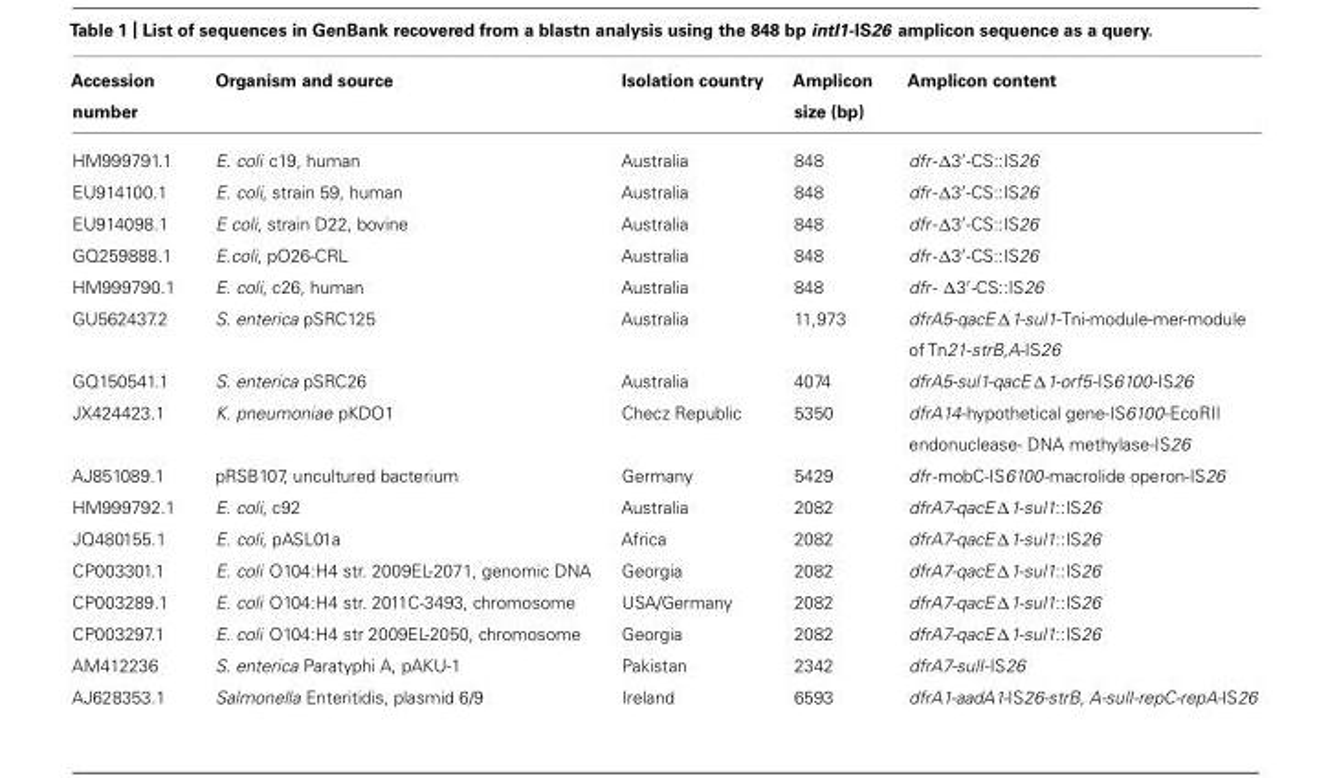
<table><thead><tr><td>Accession number</td><td>Organism and source</td><td>Isolation country</td><td>Amplicon size (bp)</td><td>Amplicon content</td></tr></thead><tbody><tr><td>HM999791.1</td><td>E. coli c19, human</td><td>Australia</td><td>848</td><td>dfr-Δ3′-CS::IS26</td></tr><tr><td>EU914100.1</td><td>E. coli, strain 59, human</td><td>Australia</td><td>848</td><td>dfr-Δ3′-CS::IS26</td></tr><tr><td>EU914098.1</td><td>E coli, strain D22, bovine</td><td>Australia</td><td>848</td><td>dfr-Δ3′-CS::IS26</td></tr><tr><td>GQ259888.1</td><td>E.coli, pO26-CRL</td><td>Australia</td><td>848</td><td>dfr-Δ3′-CS::IS26</td></tr><tr><td>HM999790.1</td><td>E. coli, c26, human</td><td>Australia</td><td>848</td><td>dfr- Δ3′-CS::IS26</td></tr><tr><td>GU562437.2</td><td>S. enterica pSRC125</td><td>Australia</td><td>11,973</td><td>dfrA5-qacEΔ1-sul1-Tni-module-mer-module of Tn21-strB,A-IS26</td></tr><tr><td>GQ150541.1</td><td>S. enterica pSRC26</td><td>Australia</td><td>4074</td><td>dfrA5-sul1-qacEΔ1-orf5-IS6100-IS26</td></tr><tr><td>JX424423.1</td><td>K. pneumoniae pKDO1</td><td>Checz Republic</td><td>5350</td><td>dfrA14-hypothetical gene-IS6100-EcoRII endonuclease- DNA methylase-IS26</td></tr><tr><td>AJ851089.1</td><td>pRSB107, uncultured bacterium</td><td>Germany</td><td>5429</td><td>dfr-mobC-IS6100-macrolide operon-IS26</td></tr><tr><td>HM999792.1</td><td>E. coli, c92</td><td>Australia</td><td>2082</td><td>dfrA7-qacEΔ1-sul1::IS26</td></tr><tr><td>JQ480155.1</td><td>E. coli, pASL01a</td><td>Africa</td><td>2082</td><td>dfrA7-qacEΔ1-sul1::IS26</td></tr><tr><td>CP003301.1</td><td>E. coli O104:H4 str. 2009EL-2071, genomic DNA</td><td>Georgia</td><td>2082</td><td>dfrA7-qacEΔ1-sul1::IS26</td></tr><tr><td>CP003289.1</td><td>E. coli O104:H4 str. 2011C-3493, chromosome</td><td>USA/Germany</td><td>2082</td><td>dfrA7-qacEΔ1-sul1::IS26</td></tr><tr><td>CP003297.1</td><td>E. coli O104:H4 str 2009EL-2050, chromosome</td><td>Georgia</td><td>2082</td><td>dfrA7-qacEΔ1-sul1::IS26</td></tr><tr><td>AM412236</td><td>S. enterica Paratyphi A, pAKU-1</td><td>Pakistan</td><td>2342</td><td>dfrA7-sulI-IS26</td></tr><tr><td>AJ628353.1</td><td>Salmonella Enteritidis, plasmid 6/9</td><td>Ireland</td><td>6593</td><td>dfrA1-aadA1-IS26-strB, A-sulI-repC-repA-IS26</td></tr></tbody></table>